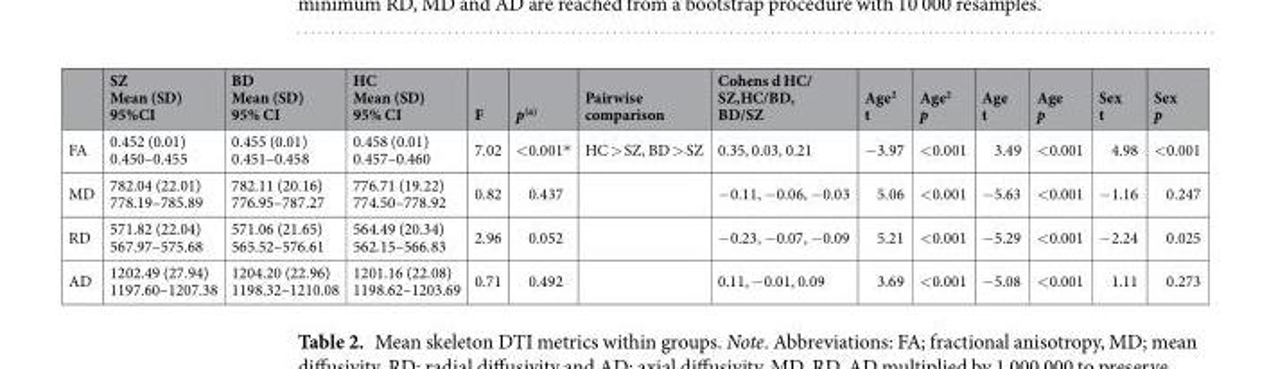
<table><thead><tr><td></td><td>SZ Mean (SD) 95%CI</td><td>BD Mean (SD) 95% CI</td><td>HC Mean (SD) 95% CI</td><td>F</td><td>p<sup>(a)</sup></td><td>Pairwise comparison</td><td>Cohens d HC/ SZ,HC/BD, BD/SZ</td><td>Age<sup>2</sup> t</td><td>Age<sup>2</sup> p</td><td>Age t</td><td>Age p</td><td>Sex t</td><td>Sex p</td></tr></thead><tbody><tr><td>FA</td><td>0.452 (0.01) 0.450–0.455</td><td>0.455 (0.01) 0.451–0.458</td><td>0.458 (0.01) 0.457–0.460</td><td>7.02</td><td>&lt;0.001*</td><td>HC &gt; SZ, BD &gt; SZ</td><td>0.35, 0.03, 0.21</td><td>−3.97</td><td>&lt;0.001</td><td>3.49</td><td>&lt;0.001</td><td>4.98</td><td>&lt;0.001</td></tr><tr><td>MD</td><td>782.04 (22.01) 778.19–785.89</td><td>782.11 (20.16) 776.95–787.27</td><td>776.71 (19.22) 774.50–778.92</td><td>0.82</td><td>0.437</td><td></td><td>−0.11, −0.06, −0.03</td><td>5.06</td><td>&lt;0.001</td><td>−5.63</td><td>&lt;0.001</td><td>−1.16</td><td>0.247</td></tr><tr><td>RD</td><td>571.82 (22.04) 567.97–575.68</td><td>571.06 (21.65) 565.52–576.61</td><td>564.49 (20.34) 562.15–566.83</td><td>2.96</td><td>0.052</td><td></td><td>−0.23, −0.07, −0.09</td><td>5.21</td><td>&lt;0.001</td><td>−5.29</td><td>&lt;0.001</td><td>−2.24</td><td>0.025</td></tr><tr><td>AD</td><td>1202.49 (27.94) 1197.60–1207.38</td><td>1204.20 (22.96) 1198.32–1210.08</td><td>1201.16 (22.08) 1198.62–1203.69</td><td>0.71</td><td>0.492</td><td></td><td>0.11, −0.01, 0.09</td><td>3.69</td><td>&lt;0.001</td><td>−5.08</td><td>&lt;0.001</td><td>1.11</td><td>0.273</td></tr></tbody></table>